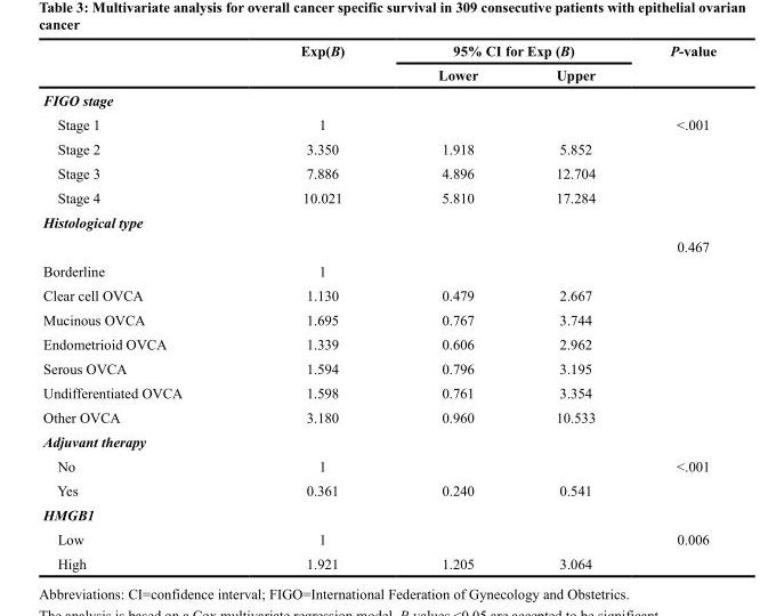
<table><thead><tr><td rowspan="2"></td><td rowspan="2">Exp(B)</td><td colspan="2">95% CI for Exp (B)</td><td rowspan="2">P-value</td></tr><tr><td>Lower</td><td>Upper</td></tr></thead><tbody><tr><td colspan="5">FIGO stage</td></tr><tr><td>Stage 1</td><td>1</td><td></td><td></td><td>&lt;.001</td></tr><tr><td>Stage 2</td><td>3.350</td><td>1.918</td><td>5.852</td><td></td></tr><tr><td>Stage 3</td><td>7.886</td><td>4.896</td><td>12.704</td><td></td></tr><tr><td>Stage 4</td><td>10.021</td><td>5.810</td><td>17.284</td><td></td></tr><tr><td colspan="5">Histological type</td></tr><tr><td></td><td></td><td></td><td></td><td>0.467</td></tr><tr><td>Borderline</td><td>1</td><td></td><td></td><td></td></tr><tr><td>Clear cell OVCA</td><td>1.130</td><td>0.479</td><td>2.667</td><td></td></tr><tr><td>Mucinous OVCA</td><td>1.695</td><td>0.767</td><td>3.744</td><td></td></tr><tr><td>Endometrioid OVCA</td><td>1.339</td><td>0.606</td><td>2.962</td><td></td></tr><tr><td>Serous OVCA</td><td>1.594</td><td>0.796</td><td>3.195</td><td></td></tr><tr><td>Undifferentiated OVCA</td><td>1.598</td><td>0.761</td><td>3.354</td><td></td></tr><tr><td>Other OVCA</td><td>3.180</td><td>0.960</td><td>10.533</td><td></td></tr><tr><td colspan="5">Adjuvant therapy</td></tr><tr><td>No</td><td>1</td><td></td><td></td><td>&lt;.001</td></tr><tr><td>Yes</td><td>0.361</td><td>0.240</td><td>0.541</td><td></td></tr><tr><td colspan="5">HMGB1</td></tr><tr><td>Low</td><td>1</td><td></td><td></td><td>0.006</td></tr><tr><td>High</td><td>1.921</td><td>1.205</td><td>3.064</td><td></td></tr></tbody></table>